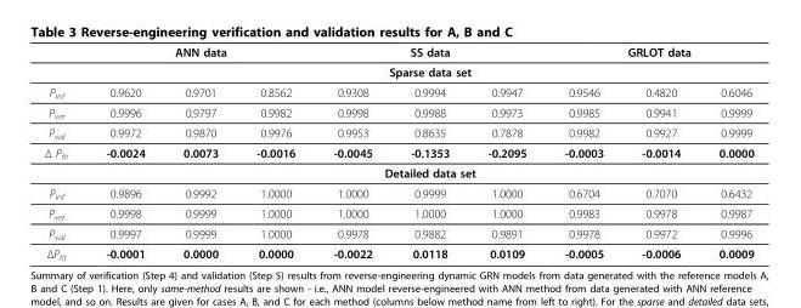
<table><thead><tr><td rowspan="3">P<sub>inf</sub></td><td colspan="3">ANN data</td><td colspan="3">SS data</td><td colspan="3">GRLOT data</td></tr><tr><td colspan="9">Sparse data set</td></tr><tr><td>0.9620</td><td>0.9701</td><td>0.8562</td><td>0.9308</td><td>0.9994</td><td>0.9947</td><td>0.9546</td><td>0.4820</td><td>0.6046</td></tr></thead><tbody><tr><td>P<sub>ver</sub></td><td>0.9996</td><td>0.9797</td><td>0.9982</td><td>0.9998</td><td>0.9988</td><td>0.9973</td><td>0.9985</td><td>0.9941</td><td>0.9999</td></tr><tr><td>P<sub>val</sub></td><td>0.9972</td><td>0.9870</td><td>0.9976</td><td>0.9953</td><td>0.8635</td><td>0.7878</td><td>0.9982</td><td>0.9927</td><td>0.9999</td></tr><tr><td rowspan="2">Δ P<sub>fit</sub></td><td>-0.0024</td><td>0.0073</td><td>-0.0016</td><td>-0.0045</td><td>-0.1353</td><td>-0.2095</td><td>-0.0003</td><td>-0.0014</td><td>0.0000</td></tr><tr><td colspan="9">Detailed data set</td></tr><tr><td>P<sub>inf</sub></td><td>0.9896</td><td>0.9992</td><td>1.0000</td><td>1.0000</td><td>0.9999</td><td>1.0000</td><td>0.6704</td><td>0.7070</td><td>0.6432</td></tr><tr><td>P<sub>ver</sub></td><td>0.9998</td><td>0.9999</td><td>1.0000</td><td>1.0000</td><td>1.0000</td><td>1.0000</td><td>0.9983</td><td>0.9978</td><td>0.9987</td></tr><tr><td>P<sub>val</sub></td><td>0.9997</td><td>0.9999</td><td>1.0000</td><td>0.9978</td><td>0.9882</td><td>0.9891</td><td>0.9978</td><td>0.9972</td><td>0.9996</td></tr><tr><td>ΔP<sub>fit</sub></td><td>-0.0001</td><td>0.0000</td><td>0.0000</td><td>-0.0022</td><td>0.0118</td><td>0.0109</td><td>-0.0005</td><td>-0.0006</td><td>0.0009</td></tr></tbody></table>